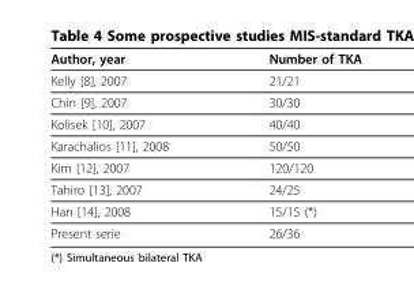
<table><thead><tr><td>Author, year</td><td>Number of TKA</td></tr></thead><tbody><tr><td>Kelly [8], 2007</td><td>21/21</td></tr><tr><td>Chin [9], 2007</td><td>30/30</td></tr><tr><td>Kolisek [10], 2007</td><td>40/40</td></tr><tr><td>Karachalios [11], 2008</td><td>50/50</td></tr><tr><td>Kim [12], 2007</td><td>120/120</td></tr><tr><td>Tahiro [13], 2007</td><td>24/25</td></tr><tr><td>Han [14], 2008</td><td>15/15 (*)</td></tr><tr><td>Present serie</td><td>26/36</td></tr></tbody></table>